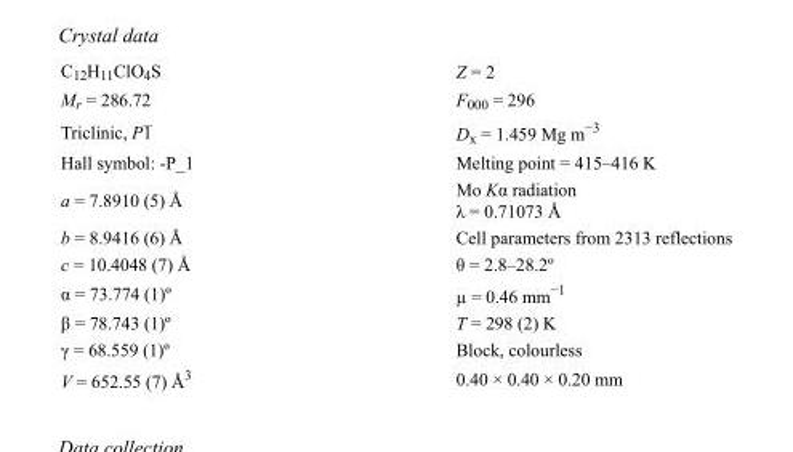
<table><tbody><tr><td>C<sub>12</sub>H<sub>11</sub>ClO<sub>4</sub>S</td><td>Z = 2</td></tr><tr><td>M<sub>r</sub> = 286.72</td><td>F000 = 296</td></tr><tr><td>Triclinic, P1</td><td>D<sub>x</sub> = 1.459 Mg m<sup>−3</sup></td></tr><tr><td>Hall symbol: -P_1</td><td>Melting point = 415–416 K</td></tr><tr><td>a = 7.8910 (5) Å</td><td>Mo Kα radiation λ = 0.71073 Å</td></tr><tr><td>b = 8.9416 (6) Å</td><td>Cell parameters from 2313 reflections</td></tr><tr><td>c = 10.4048 (7) Å</td><td>θ = 2.8–28.2º</td></tr><tr><td>α = 73.774 (1)º</td><td>µ = 0.46 mm<sup>−1</sup></td></tr><tr><td>β = 78.743 (1)º</td><td>T = 298 (2) K</td></tr><tr><td>γ = 68.559 (1)º</td><td>Block, colourless</td></tr><tr><td>V = 652.55 (7) Å<sup>3</sup></td><td>0.40 × 0.40 × 0.20 mm</td></tr></tbody></table>